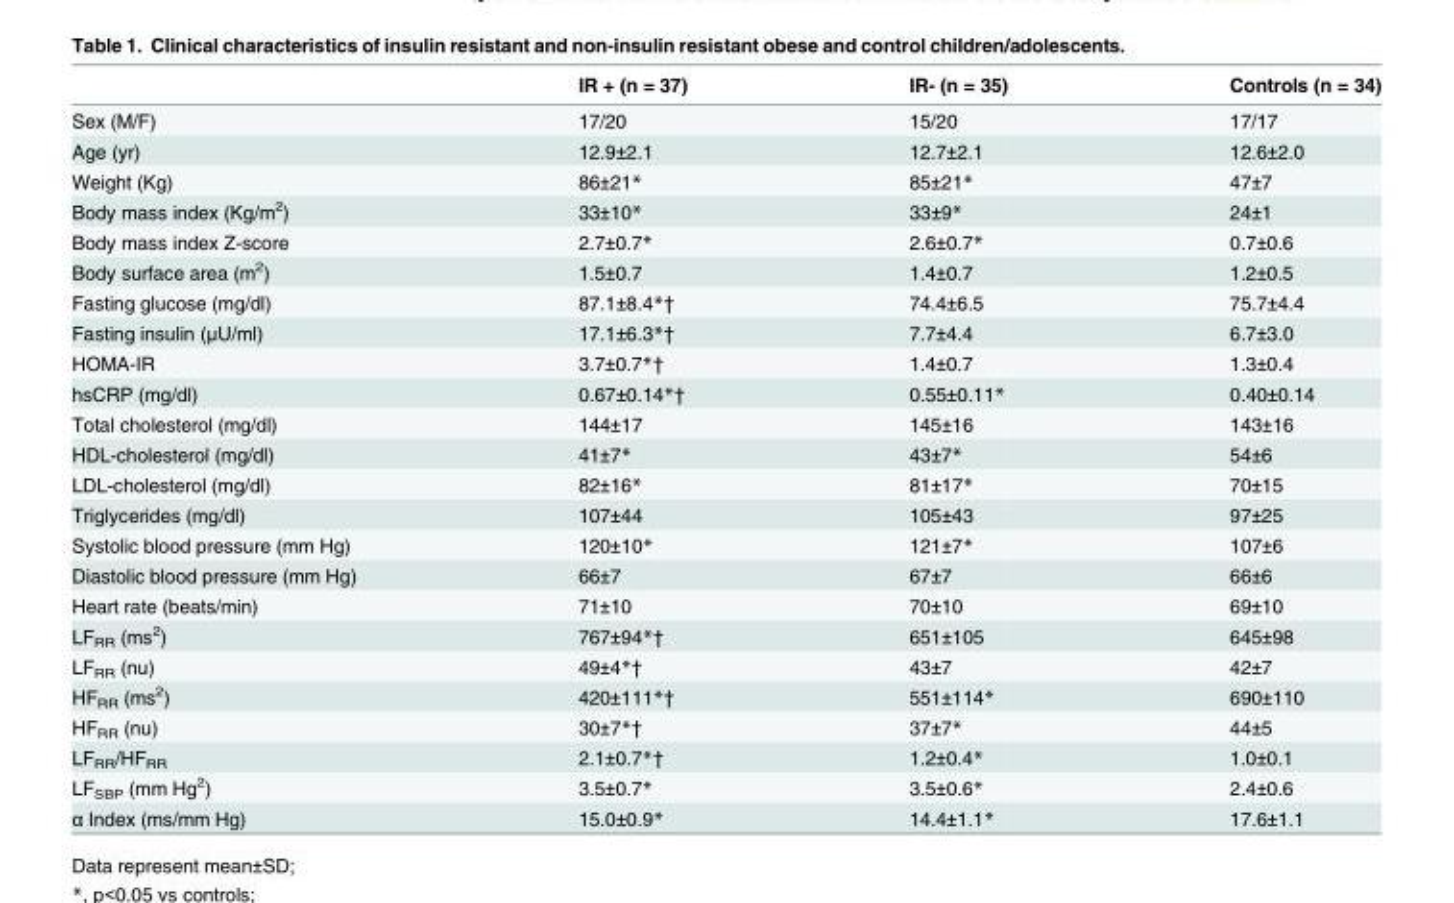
<table><thead><tr><td></td><td>IR + (n = 37)</td><td>IR- (n = 35)</td><td>Controls (n = 34)</td></tr></thead><tbody><tr><td>Sex (M/F)</td><td>17/20</td><td>15/20</td><td>17/17</td></tr><tr><td>Age (yr)</td><td>12.9±2.1</td><td>12.7±2.1</td><td>12.6±2.0</td></tr><tr><td>Weight (Kg)</td><td>86±21*</td><td>85±21*</td><td>47±7</td></tr><tr><td>Body mass index (Kg/m<sup>2</sup>)</td><td>33±10*</td><td>33±9*</td><td>24±1</td></tr><tr><td>Body mass index Z-score</td><td>2.7±0.7*</td><td>2.6±0.7*</td><td>0.7±0.6</td></tr><tr><td>Body surface area (m<sup>2</sup>)</td><td>1.5±0.7</td><td>1.4±0.7</td><td>1.2±0.5</td></tr><tr><td>Fasting glucose (mg/dl)</td><td>87.1±8.4*†</td><td>74.4±6.5</td><td>75.7±4.4</td></tr><tr><td>Fasting insulin (μU/ml)</td><td>17.1±6.3*†</td><td>7.7±4.4</td><td>6.7±3.0</td></tr><tr><td>HOMA-IR</td><td>3.7±0.7*†</td><td>1.4±0.7</td><td>1.3±0.4</td></tr><tr><td>hsCRP (mg/dl)</td><td>0.67±0.14*†</td><td>0.55±0.11*</td><td>0.40±0.14</td></tr><tr><td>Total cholesterol (mg/dl)</td><td>144±17</td><td>145±16</td><td>143±16</td></tr><tr><td>HDL-cholesterol (mg/dl)</td><td>41±7*</td><td>43±7*</td><td>54±6</td></tr><tr><td>LDL-cholesterol (mg/dl)</td><td>82±16*</td><td>81±17*</td><td>70±15</td></tr><tr><td>Triglycerides (mg/dl)</td><td>107±44</td><td>105±43</td><td>97±25</td></tr><tr><td>Systolic blood pressure (mm Hg)</td><td>120±10*</td><td>121±7*</td><td>107±6</td></tr><tr><td>Diastolic blood pressure (mm Hg)</td><td>66±7</td><td>67±7</td><td>66±6</td></tr><tr><td>Heart rate (beats/min)</td><td>71±10</td><td>70±10</td><td>69±10</td></tr><tr><td>LF<sub>RR</sub> (ms<sup>2</sup>)</td><td>767±94*†</td><td>651±105</td><td>645±98</td></tr><tr><td>LF<sub>RR</sub> (nu)</td><td>49±4*†</td><td>43±7</td><td>42±7</td></tr><tr><td>HF<sub>RR</sub> (ms<sup>2</sup>)</td><td>420±111*†</td><td>551±114*</td><td>690±110</td></tr><tr><td>HF<sub>RR</sub> (nu)</td><td>30±7*†</td><td>37±7*</td><td>44±5</td></tr><tr><td>LF<sub>RR</sub>/HF<sub>RR</sub></td><td>2.1±0.7*†</td><td>1.2±0.4*</td><td>1.0±0.1</td></tr><tr><td>LF<sub>SBP</sub> (mm Hg<sup>2</sup>)</td><td>3.5±0.7*</td><td>3.5±0.6*</td><td>2.4±0.6</td></tr><tr><td>α Index (ms/mm Hg)</td><td>15.0±0.9*</td><td>14.4±1.1*</td><td>17.6±1.1</td></tr></tbody></table>